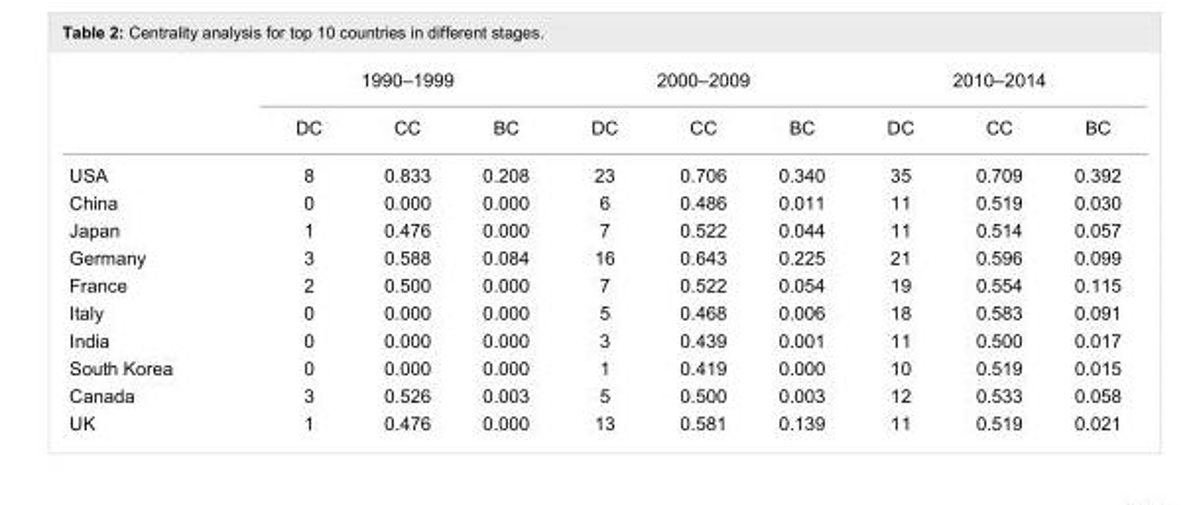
<table><thead><tr><td rowspan="2"></td><td colspan="3">1990–1999</td><td colspan="3">2000–2009</td><td colspan="3">2010–2014</td></tr><tr><td>DC</td><td>CC</td><td>BC</td><td>DC</td><td>CC</td><td>BC</td><td>DC</td><td>CC</td><td>BC</td></tr></thead><tbody><tr><td>USA</td><td>8</td><td>0.833</td><td>0.208</td><td>23</td><td>0.706</td><td>0.340</td><td>35</td><td>0.709</td><td>0.392</td></tr><tr><td>China</td><td>0</td><td>0.000</td><td>0.000</td><td>6</td><td>0.486</td><td>0.011</td><td>11</td><td>0.519</td><td>0.030</td></tr><tr><td>Japan</td><td>1</td><td>0.476</td><td>0.000</td><td>7</td><td>0.522</td><td>0.044</td><td>11</td><td>0.514</td><td>0.057</td></tr><tr><td>Germany</td><td>3</td><td>0.588</td><td>0.084</td><td>16</td><td>0.643</td><td>0.225</td><td>21</td><td>0.596</td><td>0.099</td></tr><tr><td>France</td><td>2</td><td>0.500</td><td>0.000</td><td>7</td><td>0.522</td><td>0.054</td><td>19</td><td>0.554</td><td>0.115</td></tr><tr><td>Italy</td><td>0</td><td>0.000</td><td>0.000</td><td>5</td><td>0.468</td><td>0.006</td><td>18</td><td>0.583</td><td>0.091</td></tr><tr><td>India</td><td>0</td><td>0.000</td><td>0.000</td><td>3</td><td>0.439</td><td>0.001</td><td>11</td><td>0.500</td><td>0.017</td></tr><tr><td>South Korea</td><td>0</td><td>0.000</td><td>0.000</td><td>1</td><td>0.419</td><td>0.000</td><td>10</td><td>0.519</td><td>0.015</td></tr><tr><td>Canada</td><td>3</td><td>0.526</td><td>0.003</td><td>5</td><td>0.500</td><td>0.003</td><td>12</td><td>0.533</td><td>0.058</td></tr><tr><td>UK</td><td>1</td><td>0.476</td><td>0.000</td><td>13</td><td>0.581</td><td>0.139</td><td>11</td><td>0.519</td><td>0.021</td></tr></tbody></table>